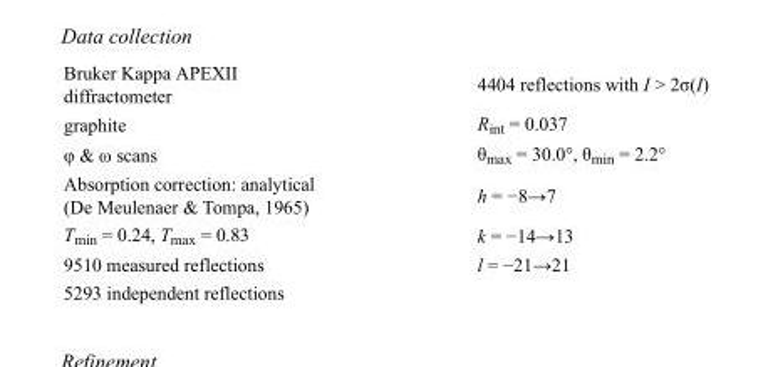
<table><tbody><tr><td>Bruker Kappa APEXII diffractometer</td><td>4404 reflections with I &gt; 2σ(I)</td></tr><tr><td>graphite</td><td>R<sub>int</sub> = 0.037</td></tr><tr><td>φ &amp; ω scans</td><td>θ<sub>max</sub> = 30.0°, θ<sub>min</sub> = 2.2°</td></tr><tr><td>Absorption correction: analytical (De Meulenaer &amp; Tompa, 1965)</td><td>h = −8→7</td></tr><tr><td>T<sub>min</sub> = 0.24, T<sub>max</sub> = 0.83</td><td>k = −14→13</td></tr><tr><td>9510 measured reflections</td><td>l = −21→21</td></tr><tr><td>5293 independent reflections</td><td></td></tr></tbody></table>